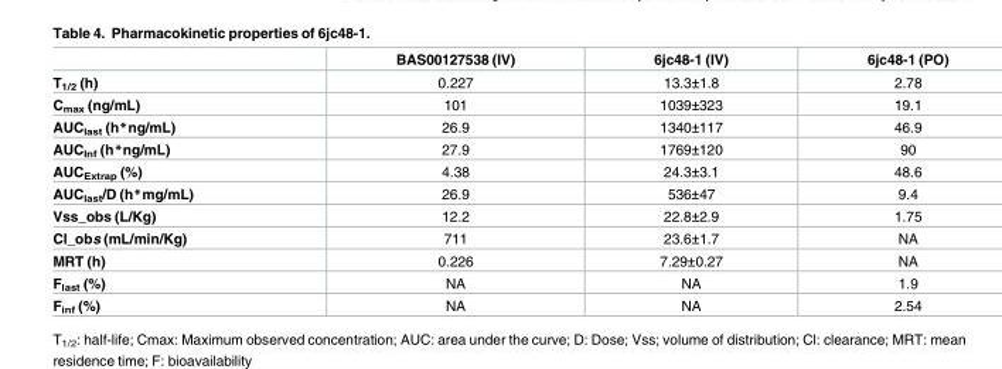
<table><thead><tr><td></td><td>BAS00127538 (IV)</td><td>6jc48-1 (IV)</td><td>6jc48-1 (PO)</td></tr></thead><tbody><tr><td>T<sub>1/2</sub> (h)</td><td>0.227</td><td>13.3±1.8</td><td>2.78</td></tr><tr><td>C<sub>max</sub> (ng/mL)</td><td>101</td><td>1039±323</td><td>19.1</td></tr><tr><td>AUC<sub>last</sub> (h*ng/mL)</td><td>26.9</td><td>1340±117</td><td>46.9</td></tr><tr><td>AUC<sub>Inf</sub> (h*ng/mL)</td><td>27.9</td><td>1769±120</td><td>90</td></tr><tr><td>AUC<sub>Extrap</sub> (%)</td><td>4.38</td><td>24.3±3.1</td><td>48.6</td></tr><tr><td>AUC<sub>last</sub>/D (h*mg/mL)</td><td>26.9</td><td>536±47</td><td>9.4</td></tr><tr><td>Vss_obs (L/Kg)</td><td>12.2</td><td>22.8±2.9</td><td>1.75</td></tr><tr><td>Cl_obs (mL/min/Kg)</td><td>711</td><td>23.6±1.7</td><td>NA</td></tr><tr><td>MRT (h)</td><td>0.226</td><td>7.29±0.27</td><td>NA</td></tr><tr><td>F<sub>last</sub> (%)</td><td>NA</td><td>NA</td><td>1.9</td></tr><tr><td>F<sub>inf</sub> (%)</td><td>NA</td><td>NA</td><td>2.54</td></tr></tbody></table>